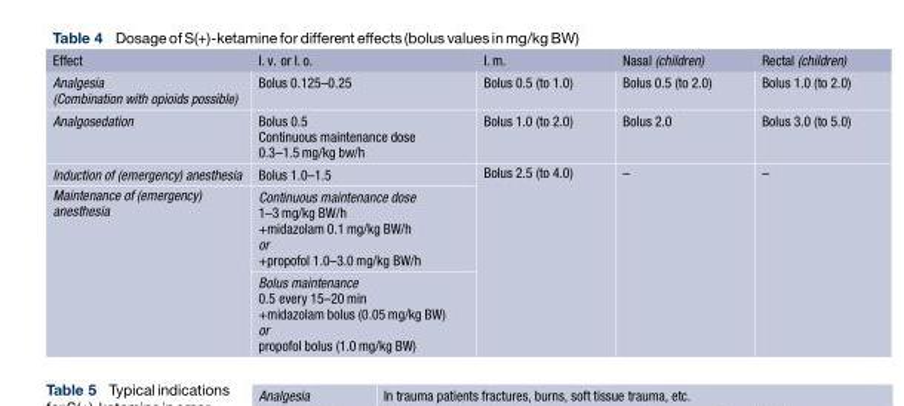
<table><thead><tr><td>Effect</td><td>I. v. or I. o.</td><td>I. m.</td><td>Nasal (children)</td><td>Rectal (children)</td></tr></thead><tbody><tr><td>Analgesia (Combination with opioids possible)</td><td>Bolus 0.125–0.25</td><td>Bolus 0.5 (to 1.0)</td><td>Bolus 0.5 (to 2.0)</td><td>Bolus 1.0 (to 2.0)</td></tr><tr><td>Analgosedation</td><td>Bolus 0.5 Continuous maintenance dose 0.3–1.5 mg/kg bw/h</td><td>Bolus 1.0 (to 2.0)</td><td>Bolus 2.0</td><td>Bolus 3.0 (to 5.0)</td></tr><tr><td>Induction of (emergency) anesthesia</td><td>Bolus 1.0–1.5</td><td rowspan="3">Bolus 2.5 (to 4.0)</td><td rowspan="3">–</td><td rowspan="3">–</td></tr><tr><td rowspan="2">Maintenance of (emergency) anesthesia</td><td>Continuous maintenance dose 1–3 mg/kg BW/h +midazolam 0.1 mg/kg BW/h or +propofol 1.0–3.0 mg/kg BW/h</td></tr><tr><td>Bolus maintenance 0.5 every 15–20 min +midazolam bolus (0.05 mg/kg BW) or propofol bolus (1.0 mg/kg BW)</td></tr></tbody></table>